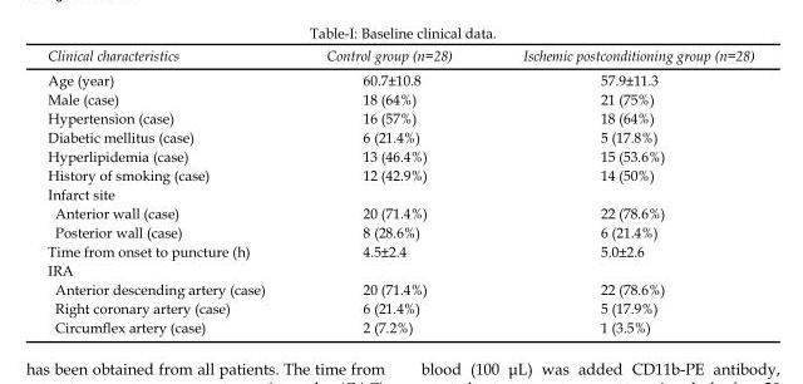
<table><thead><tr><td>Clinical characteristics</td><td>Control group (n=28)</td><td>Ischemic postconditioning group (n=28)</td></tr></thead><tbody><tr><td>Age (year)</td><td>60.7±10.8</td><td>57.9±11.3</td></tr><tr><td>Male (case)</td><td>18 (64%)</td><td>21 (75%)</td></tr><tr><td>Hypertension (case)</td><td>16 (57%)</td><td>18 (64%)</td></tr><tr><td>Diabetic mellitus (case)</td><td>6 (21.4%)</td><td>5 (17.8%)</td></tr><tr><td>Hyperlipidemia (case)</td><td>13 (46.4%)</td><td>15 (53.6%)</td></tr><tr><td>History of smoking (case)</td><td>12 (42.9%)</td><td>14 (50%)</td></tr><tr><td colspan="3">Infarct site</td></tr><tr><td>Anterior wall (case)</td><td>20 (71.4%)</td><td>22 (78.6%)</td></tr><tr><td>Posterior wall (case)</td><td>8 (28.6%)</td><td>6 (21.4%)</td></tr><tr><td>Time from onset to puncture (h)</td><td>4.5±2.4</td><td>5.0±2.6</td></tr><tr><td colspan="3">IRA</td></tr><tr><td>Anterior descending artery (case)</td><td>20 (71.4%)</td><td>22 (78.6%)</td></tr><tr><td>Right coronary artery (case)</td><td>6 (21.4%)</td><td>5 (17.9%)</td></tr><tr><td>Circumflex artery (case)</td><td>2 (7.2%)</td><td>1 (3.5%)</td></tr></tbody></table>